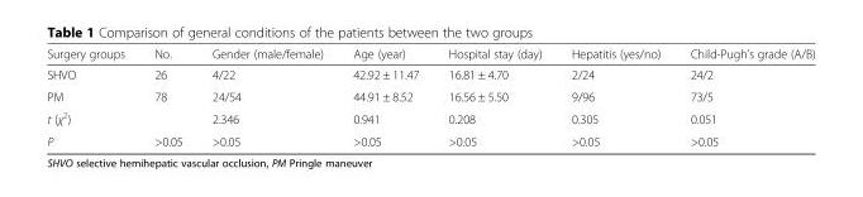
<table><thead><tr><td>Surgery groups</td><td>No.</td><td>Gender (male/female)</td><td>Age (year)</td><td>Hospital stay (day)</td><td>Hepatitis (yes/no)</td><td>Child-Pugh’s grade (A/B)</td></tr></thead><tbody><tr><td>SHVO</td><td>26</td><td>4/22</td><td>42.92 ± 11.47</td><td>16.81 ± 4.70</td><td>2/24</td><td>24/2</td></tr><tr><td>PM</td><td>78</td><td>24/54</td><td>44.91 ± 8.52</td><td>16.56 ± 5.50</td><td>9/96</td><td>73/5</td></tr><tr><td>t (χ<sup>2</sup>)</td><td></td><td>2.346</td><td>0.941</td><td>0.208</td><td>0.305</td><td>0.051</td></tr><tr><td>P</td><td>&gt;0.05</td><td>&gt;0.05</td><td>&gt;0.05</td><td>&gt;0.05</td><td>&gt;0.05</td><td>&gt;0.05</td></tr></tbody></table>